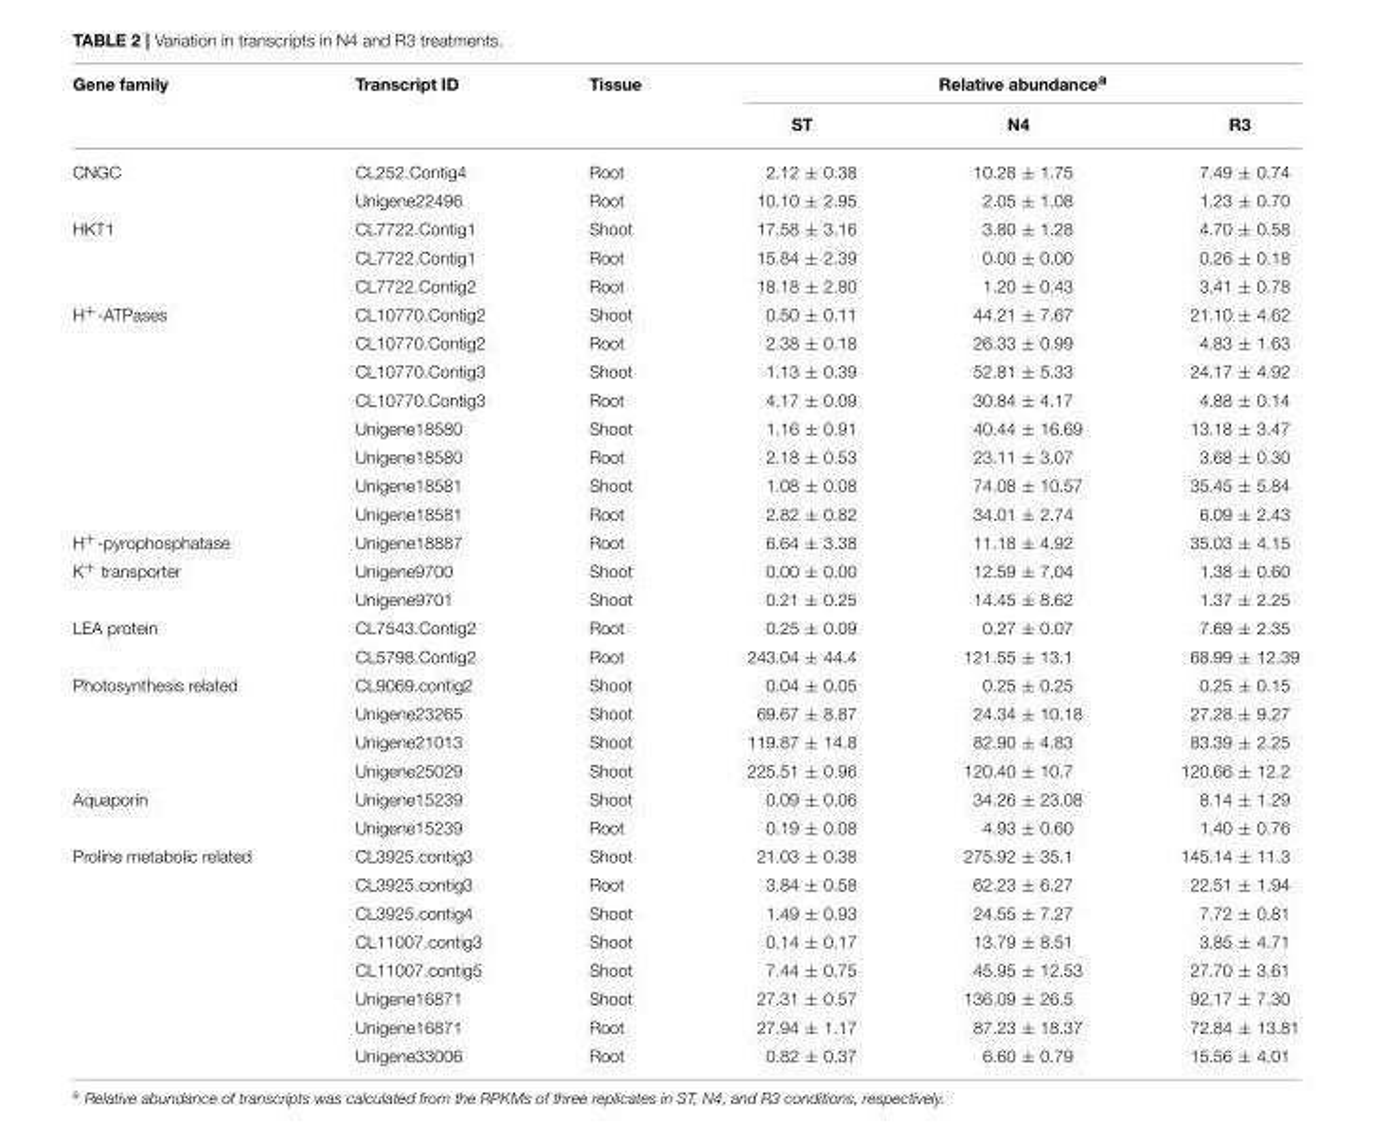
<table><thead><tr><td rowspan="2">Gene family</td><td rowspan="2">Transcript ID</td><td rowspan="2">Tissue</td><td colspan="3">Relative abundance<sup>a</sup></td></tr><tr><td>ST</td><td>N4</td><td>R3</td></tr></thead><tbody><tr><td rowspan="2">CNGC</td><td>CL252.Contig4</td><td>Root</td><td>2.12 ± 0.38</td><td>10.28 ± 1.75</td><td>7.49 ± 0.74</td></tr><tr><td>Unigene22496</td><td>Root</td><td>10.10 ± 2.95</td><td>2.05 ± 1.08</td><td>1.23 ± 0.70</td></tr><tr><td rowspan="3">HKT1</td><td>CL7722.Contig1</td><td>Shoot</td><td>17.58 ± 3.16</td><td>3.80 ± 1.28</td><td>4.70 ± 0.58</td></tr><tr><td>CL7722.Contig1</td><td>Root</td><td>15.84 ± 2.39</td><td>0.00 ± 0.00</td><td>0.26 ± 0.18</td></tr><tr><td>CL7722.Contig2</td><td>Root</td><td>18.18 ± 2.80</td><td>1.20 ± 0.43</td><td>3.41 ± 0.78</td></tr><tr><td rowspan="8">H<sup>+</sup>-ATPases</td><td>CL10770.Contig2</td><td>Shoot</td><td>0.50 ± 0.11</td><td>44.21 ± 7.67</td><td>21.10 ± 4.62</td></tr><tr><td>CL10770.Contig2</td><td>Root</td><td>2.38 ± 0.18</td><td>26.33 ± 0.99</td><td>4.83 ± 1.63</td></tr><tr><td>CL10770.Contig3</td><td>Shoot</td><td>1.13 ± 0.39</td><td>52.81 ± 5.33</td><td>24.17 ± 4.92</td></tr><tr><td>CL10770.Contig3</td><td>Root</td><td>4.17 ± 0.09</td><td>30.84 ± 4.17</td><td>4.88 ± 0.14</td></tr><tr><td>Unigene18580</td><td>Shoot</td><td>1.16 ± 0.91</td><td>40.44 ± 16.69</td><td>13.18 ± 3.47</td></tr><tr><td>Unigene18580</td><td>Root</td><td>2.18 ± 0.53</td><td>23.11 ± 3.07</td><td>3.68 ± 0.30</td></tr><tr><td>Unigene18581</td><td>Shoot</td><td>1.08 ± 0.08</td><td>74.08 ± 10.57</td><td>35.45 ± 5.84</td></tr><tr><td>Unigene18581</td><td>Root</td><td>2.82 ± 0.82</td><td>34.01 ± 2.74</td><td>6.09 ± 2.43</td></tr><tr><td>H<sup>+</sup>-pyrophosphatase</td><td>Unigene18887</td><td>Root</td><td>6.64 ± 3.38</td><td>11.18 ± 4.92</td><td>35.03 ± 4.15</td></tr><tr><td rowspan="2">K<sup>+</sup> transporter</td><td>Unigene9700</td><td>Shoot</td><td>0.00 ± 0.00</td><td>12.59 ± 7.04</td><td>1.38 ± 0.60</td></tr><tr><td>Unigene9701</td><td>Shoot</td><td>0.21 ± 0.25</td><td>14.45 ± 8.62</td><td>1.37 ± 2.25</td></tr><tr><td rowspan="2">LEA protein</td><td>CL7543.Contig2</td><td>Root</td><td>0.25 ± 0.09</td><td>0.27 ± 0.07</td><td>7.69 ± 2.35</td></tr><tr><td>CL5798.Contig2</td><td>Root</td><td>243.04 ± 44.4</td><td>121.55 ± 13.1</td><td>68.99 ± 12.39</td></tr><tr><td rowspan="4">Photosynthesis related</td><td>CL9069.contig2</td><td>Shoot</td><td>0.04 ± 0.05</td><td>0.25 ± 0.25</td><td>0.25 ± 0.15</td></tr><tr><td>Unigene23265</td><td>Shoot</td><td>69.67 ± 8.87</td><td>24.34 ± 10.18</td><td>27.28 ± 9.27</td></tr><tr><td>Unigene21013</td><td>Shoot</td><td>119.87 ± 14.8</td><td>82.90 ± 4.83</td><td>83.39 ± 2.25</td></tr><tr><td>Unigene25029</td><td>Shoot</td><td>225.51 ± 0.96</td><td>120.40 ± 10.7</td><td>120.66 ± 12.2</td></tr><tr><td rowspan="2">Aquaporin</td><td>Unigene15239</td><td>Shoot</td><td>0.09 ± 0.06</td><td>34.26 ± 23.08</td><td>8.14 ± 1.29</td></tr><tr><td>Unigene15239</td><td>Root</td><td>0.19 ± 0.08</td><td>4.93 ± 0.60</td><td>1.40 ± 0.76</td></tr><tr><td rowspan="8">Proline metabolic related</td><td>CL3925.contig3</td><td>Shoot</td><td>21.03 ± 0.38</td><td>275.92 ± 35.1</td><td>145.14 ± 11.3</td></tr><tr><td>CL3925.contig3</td><td>Root</td><td>3.84 ± 0.58</td><td>62.23 ± 6.27</td><td>22.51 ± 1.94</td></tr><tr><td>CL3925.contig4</td><td>Shoot</td><td>1.49 ± 0.93</td><td>24.55 ± 7.27</td><td>7.72 ± 0.81</td></tr><tr><td>CL11007.contig3</td><td>Shoot</td><td>0.14 ± 0.17</td><td>13.79 ± 8.51</td><td>3.85 ± 4.71</td></tr><tr><td>CL11007.contig5</td><td>Shoot</td><td>7.44 ± 0.75</td><td>45.95 ± 12.53</td><td>27.70 ± 3.61</td></tr><tr><td>Unigene16871</td><td>Shoot</td><td>27.31 ± 0.57</td><td>136.09 ± 26.5</td><td>92.17 ± 7.30</td></tr><tr><td>Unigene16871</td><td>Root</td><td>27.94 ± 1.17</td><td>87.23 ± 18.37</td><td>72.84 ± 13.81</td></tr><tr><td>Unigene33006</td><td>Root</td><td>0.82 ± 0.37</td><td>6.60 ± 0.79</td><td>15.56 ± 4.01</td></tr></tbody></table>